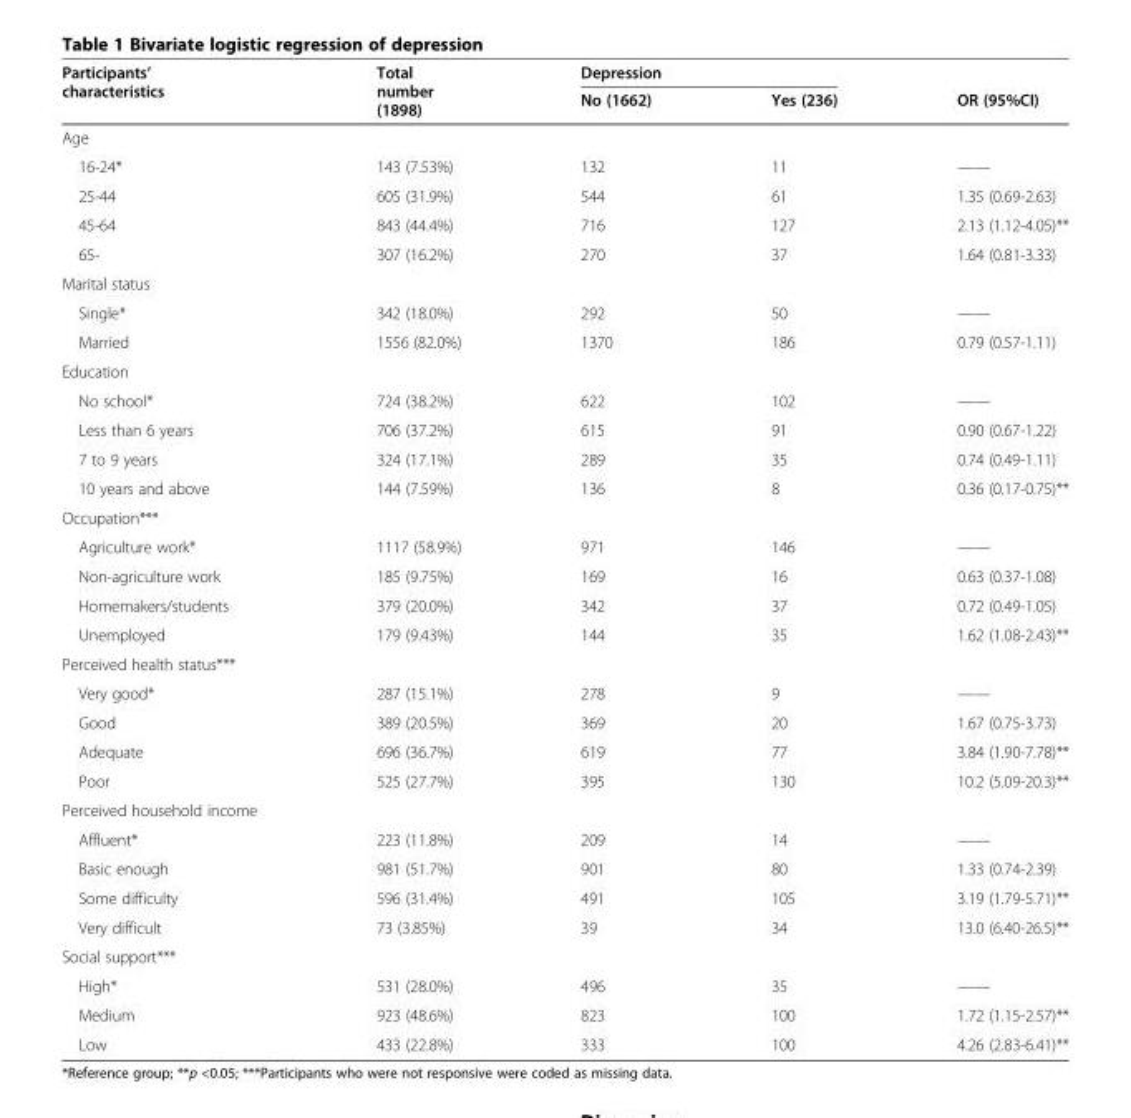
<table><thead><tr><td rowspan="2">Participants’ characteristics</td><td rowspan="2">Total number (1898)</td><td colspan="2">Depression</td><td rowspan="2">OR (95%CI)</td></tr><tr><td>No (1662)</td><td>Yes (236)</td></tr></thead><tbody><tr><td colspan="5">Age</td></tr><tr><td>16-24*</td><td>143 (7.53%)</td><td>132</td><td>11</td><td>——</td></tr><tr><td>25-44</td><td>605 (31.9%)</td><td>544</td><td>61</td><td>1.35 (0.69-2.63)</td></tr><tr><td>45-64</td><td>843 (44.4%)</td><td>716</td><td>127</td><td>2.13 (1.12-4.05)**</td></tr><tr><td>65-</td><td>307 (16.2%)</td><td>270</td><td>37</td><td>1.64 (0.81-3.33)</td></tr><tr><td colspan="5">Marital status</td></tr><tr><td>Single*</td><td>342 (18.0%)</td><td>292</td><td>50</td><td>——</td></tr><tr><td>Married</td><td>1556 (82.0%)</td><td>1370</td><td>186</td><td>0.79 (0.57-1.11)</td></tr><tr><td colspan="5">Education</td></tr><tr><td>No school*</td><td>724 (38.2%)</td><td>622</td><td>102</td><td>——</td></tr><tr><td>Less than 6 years</td><td>706 (37.2%)</td><td>615</td><td>91</td><td>0.90 (0.67-1.22)</td></tr><tr><td>7 to 9 years</td><td>324 (17.1%)</td><td>289</td><td>35</td><td>0.74 (0.49-1.11)</td></tr><tr><td>10 years and above</td><td>144 (7.59%)</td><td>136</td><td>8</td><td>0.36 (0.17-0.75)**</td></tr><tr><td colspan="5">Occupation***</td></tr><tr><td>Agriculture work*</td><td>1117 (58.9%)</td><td>971</td><td>146</td><td>——</td></tr><tr><td>Non-agriculture work</td><td>185 (9.75%)</td><td>169</td><td>16</td><td>0.63 (0.37-1.08)</td></tr><tr><td>Homemakers/students</td><td>379 (20.0%)</td><td>342</td><td>37</td><td>0.72 (0.49-1.05)</td></tr><tr><td>Unemployed</td><td>179 (9.43%)</td><td>144</td><td>35</td><td>1.62 (1.08-2.43)**</td></tr><tr><td colspan="5">Perceived health status***</td></tr><tr><td>Very good*</td><td>287 (15.1%)</td><td>278</td><td>9</td><td>——</td></tr><tr><td>Good</td><td>389 (20.5%)</td><td>369</td><td>20</td><td>1.67 (0.75-3.73)</td></tr><tr><td>Adequate</td><td>696 (36.7%)</td><td>619</td><td>77</td><td>3.84 (1.90-7.78)**</td></tr><tr><td>Poor</td><td>525 (27.7%)</td><td>395</td><td>130</td><td>10.2 (5.09-20.3)**</td></tr><tr><td colspan="5">Perceived household income</td></tr><tr><td>Affluent*</td><td>223 (11.8%)</td><td>209</td><td>14</td><td>——</td></tr><tr><td>Basic enough</td><td>981 (51.7%)</td><td>901</td><td>80</td><td>1.33 (0.74-2.39)</td></tr><tr><td>Some difficulty</td><td>596 (31.4%)</td><td>491</td><td>105</td><td>3.19 (1.79-5.71)**</td></tr><tr><td>Very difficult</td><td>73 (3.85%)</td><td>39</td><td>34</td><td>13.0 (6.40-26.5)**</td></tr><tr><td colspan="5">Social support***</td></tr><tr><td>High*</td><td>531 (28.0%)</td><td>496</td><td>35</td><td>——</td></tr><tr><td>Medium</td><td>923 (48.6%)</td><td>823</td><td>100</td><td>1.72 (1.15-2.57)**</td></tr><tr><td>Low</td><td>433 (22.8%)</td><td>333</td><td>100</td><td>4.26 (2.83-6.41)**</td></tr></tbody></table>